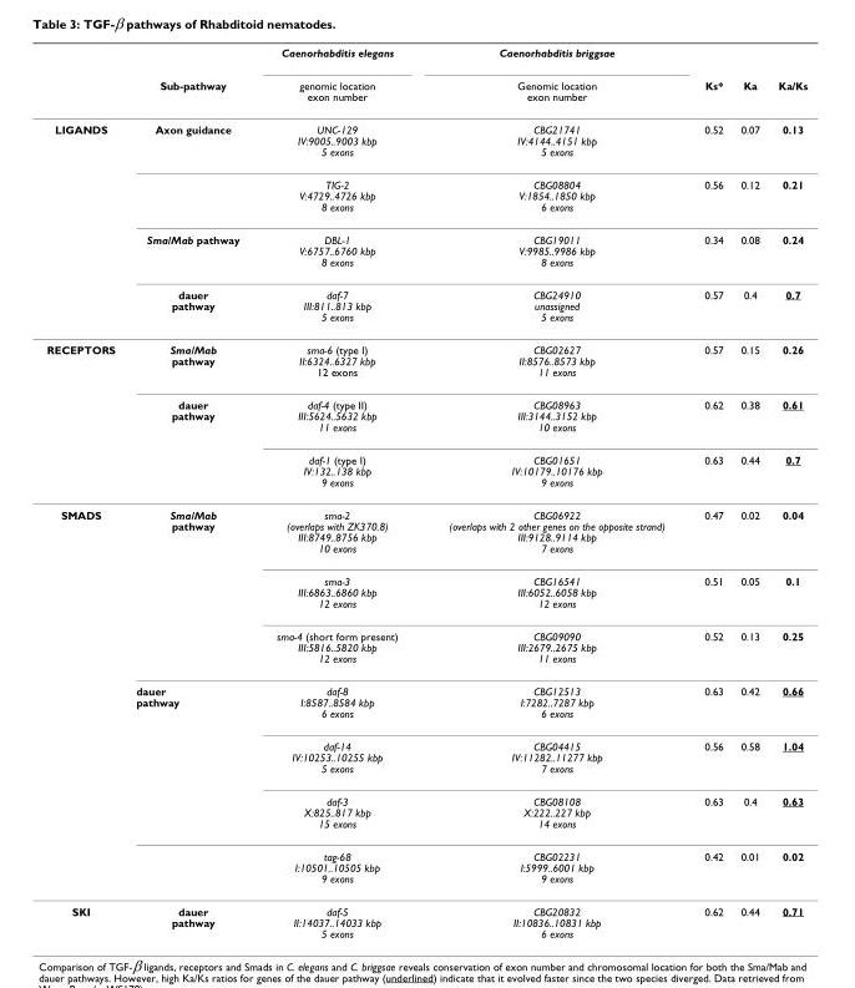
<table><thead><tr><td rowspan="2"></td><td rowspan="2">Sub-pathway</td><td rowspan="2">Caenorhabditis elegans genomic location exon number</td><td rowspan="2">Caenorhabditis briggsae Genomic location exon number</td><td rowspan="2">Ks*</td><td rowspan="2">Ka</td><td rowspan="2">Ka/Ks</td></tr><tr></tr></thead><tbody><tr><td rowspan="4">LIGANDS</td><td>Axon guidance</td><td>UNC-129 IV:9005..9003 kbp 5 exons</td><td>CBG21741 IV:4144..4151 kbp 5 exons</td><td>0.52</td><td>0.07</td><td>0.13</td></tr><tr><td></td><td>TIG-2 V:4729..4726 kbp 8 exons</td><td>CBG08804 V:1854..1850 kbp 6 exons</td><td>0.56</td><td>0.12</td><td>0.21</td></tr><tr><td>Sma/Mab pathway</td><td>DBL-1 V:6757..6760 kbp 8 exons</td><td>CBG19011 V:9985..9986 kbp 8 exons</td><td>0.34</td><td>0.08</td><td>0.24</td></tr><tr><td>dauer pathway</td><td>daf-7 III:811..813 kbp 5 exons</td><td>CBG24910 unassigned 5 exons</td><td>0.57</td><td>0.4</td><td>0.7</td></tr><tr><td rowspan="3">RECEPTORS</td><td>Sma/Mab pathway</td><td>sma-6 (type I) II:6324..6327 kbp 12 exons</td><td>CBG02627 II:8576..8573 kbp 11 exons</td><td>0.57</td><td>0.15</td><td>0.26</td></tr><tr><td>dauer pathway</td><td>daf-4 (type II) III:5624..5632 kbp 11 exons</td><td>CBG08963 III:3144..3152 kbp 10 exons</td><td>0.62</td><td>0.38</td><td>0.61</td></tr><tr><td></td><td>daf-1 (type I) IV:132..138 kbp 9 exons</td><td>CBG01651 IV:10179..10176 kbp 9 exons</td><td>0.63</td><td>0.44</td><td>0.7</td></tr><tr><td rowspan="7">SMADS</td><td>Sma/Mab pathway</td><td>sma-2 (overlaps with ZK370.8) III:8749..8756 kbp 10 exons</td><td>CBG06922 (overlaps with 2 other genes on the opposite strand) III:9128..9114 kbp 7 exons</td><td>0.47</td><td>0.02</td><td>0.04</td></tr><tr><td></td><td>sma-3 III:6863..6860 kbp 12 exons</td><td>CBG16541 III:6052..6058 kbp 12 exons</td><td>0.51</td><td>0.05</td><td>0.1</td></tr><tr><td></td><td>sma-4 (short form present) III:5816..5820 kbp 12 exons</td><td>CBG09090 III:2679..2675 kbp 11 exons</td><td>0.52</td><td>0.13</td><td>0.25</td></tr><tr><td>dauer pathway</td><td>daf-8 I:8587..8584 kbp 6 exons</td><td>CBG12513 I:7282..7287 kbp 6 exons</td><td>0.63</td><td>0.42</td><td>0.66</td></tr><tr><td></td><td>daf-14 IV:10253..10255 kbp 5 exons</td><td>CBG04415 IV:11282..11277 kbp 7 exons</td><td>0.56</td><td>0.58</td><td>1.04</td></tr><tr><td></td><td>daf-3 X:825..817 kbp 15 exons</td><td>CBG08108 X:222..227 kbp 14 exons</td><td>0.63</td><td>0.4</td><td>0.63</td></tr><tr><td></td><td>tag-68 I:10501..10505 kbp 9 exons</td><td>CBG02231 I:5999..6001 kbp 9 exons</td><td>0.42</td><td>0.01</td><td>0.02</td></tr><tr><td>SKI</td><td>dauer pathway</td><td>daf-5 II:14037..14033 kbp 5 exons</td><td>CBG20832 II:10836..10831 kbp 6 exons</td><td>0.62</td><td>0.44</td><td>0.71</td></tr></tbody></table>